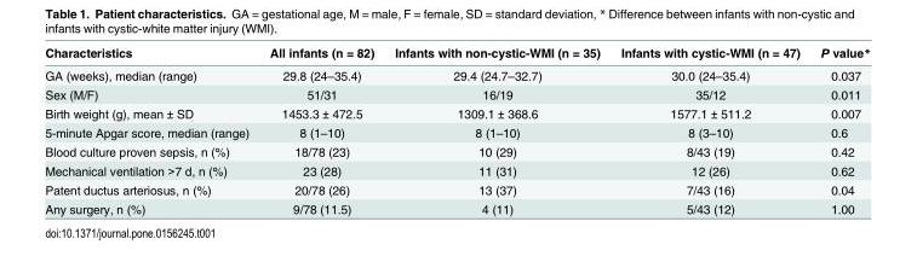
<table><thead><tr><td>Characteristics</td><td>All infants (n = 82)</td><td>Infants with non-cystic-WMI (n = 35)</td><td>Infants with cystic-WMI (n = 47)</td><td>P value*</td></tr></thead><tbody><tr><td>GA (weeks), median (range)</td><td>29.8 (24–35.4)</td><td>29.4 (24.7–32.7)</td><td>30.0 (24–35.4)</td><td>0.037</td></tr><tr><td>Sex (M/F)</td><td>51/31</td><td>16/19</td><td>35/12</td><td>0.011</td></tr><tr><td>Birth weight (g), mean ± SD</td><td>1453.3 ± 472.5</td><td>1309.1 ± 368.6</td><td>1577.1 ± 511.2</td><td>0.007</td></tr><tr><td>5-minute Apgar score, median (range)</td><td>8 (1–10)</td><td>8 (1–10)</td><td>8 (3–10)</td><td>0.6</td></tr><tr><td>Blood culture proven sepsis, n (%)</td><td>18/78 (23)</td><td>10 (29)</td><td>8/43 (19)</td><td>0.42</td></tr><tr><td>Mechanical ventilation &gt;7 d, n (%)</td><td>23 (28)</td><td>11 (31)</td><td>12 (26)</td><td>0.62</td></tr><tr><td>Patent ductus arteriosus, n (%)</td><td>20/78 (26)</td><td>13 (37)</td><td>7/43 (16)</td><td>0.04</td></tr><tr><td>Any surgery, n (%)</td><td>9/78 (11.5)</td><td>4 (11)</td><td>5/43 (12)</td><td>1.00</td></tr></tbody></table>